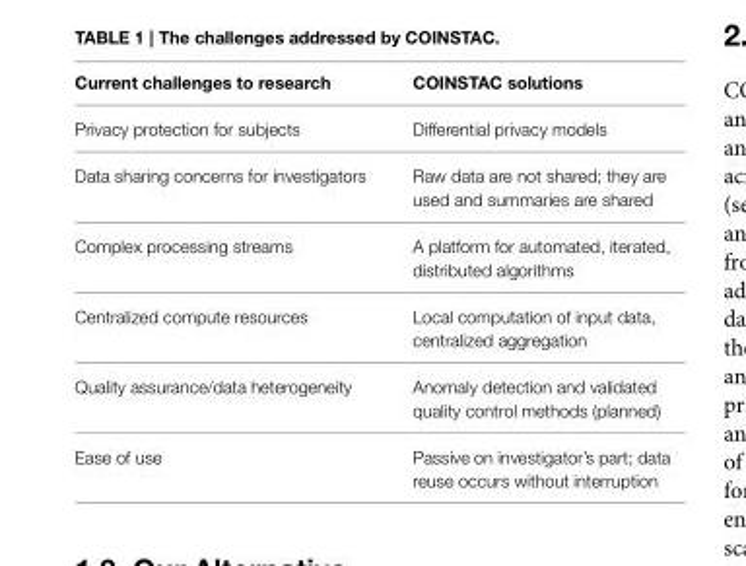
<table><thead><tr><td>Current challenges to research</td><td>COINSTAC solutions</td></tr></thead><tbody><tr><td>Privacy protection for subjects</td><td>Differential privacy models</td></tr><tr><td>Data sharing concerns for investigators</td><td>Raw data are not shared; they are used and summaries are shared</td></tr><tr><td>Complex processing streams</td><td>A platform for automated, iterated, distributed algorithms</td></tr><tr><td>Centralized compute resources</td><td>Local computation of input data, centralized aggregation</td></tr><tr><td>Quality assurance/data heterogeneity</td><td>Anomaly detection and validated quality control methods (planned)</td></tr><tr><td>Ease of use</td><td>Passive on investigator’s part; data reuse occurs without interruption</td></tr></tbody></table>